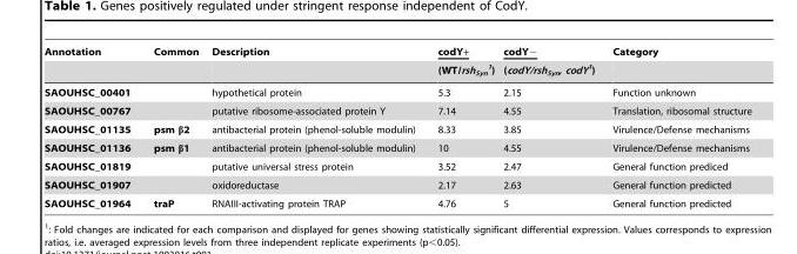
<table><thead><tr><td rowspan="2">Annotation</td><td rowspan="2">Common</td><td rowspan="2">Description</td><td rowspan="2">codY+ (WT/rsh<sub>Syn</sub> 1)</td><td rowspan="2">codY− (codY/rsh<sub>Syn</sub>, codY1)</td><td rowspan="2">Category</td></tr><tr></tr></thead><tbody><tr><td>SAOUHSC_00401</td><td></td><td>hypothetical protein</td><td>5.3</td><td>2.15</td><td>Function unknown</td></tr><tr><td>SAOUHSC_00767</td><td></td><td>putative ribosome-associated protein Y</td><td>7.14</td><td>4.55</td><td>Translation, ribosomal structure</td></tr><tr><td>SAOUHSC_01135</td><td>psm β2</td><td>antibacterial protein (phenol-soluble modulin)</td><td>8.33</td><td>3.85</td><td>Virulence/Defense mechanisms</td></tr><tr><td>SAOUHSC_01136</td><td>psm β1</td><td>antibacterial protein (phenol-soluble modulin)</td><td>10</td><td>4.55</td><td>Virulence/Defense mechanisms</td></tr><tr><td>SAOUHSC_01819</td><td></td><td>putative universal stress protein</td><td>3.52</td><td>2.47</td><td>General function prediced</td></tr><tr><td>SAOUHSC_01907</td><td></td><td>oxidoreductase</td><td>2.17</td><td>2.63</td><td>General function predicted</td></tr><tr><td>SAOUHSC_01964</td><td>traP</td><td>RNAIII-activating protein TRAP</td><td>4.76</td><td>5</td><td>General function predicted</td></tr></tbody></table>